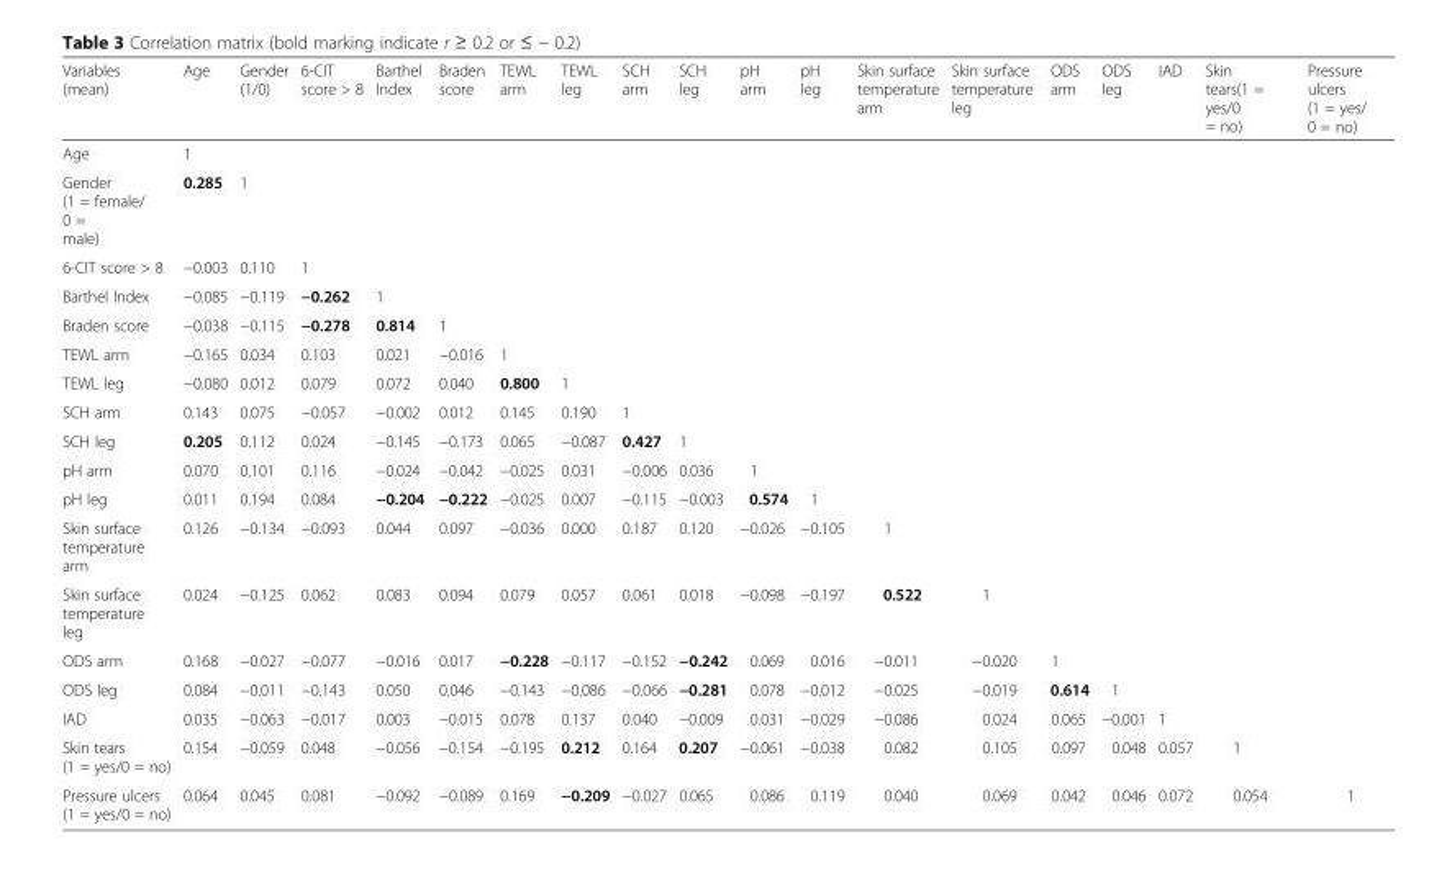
<table><thead><tr><td>Variables (mean)</td><td>Age</td><td>Gender (1/0)</td><td>6-CIT score &gt; 8</td><td>Barthel Index</td><td>Braden score</td><td>TEWL arm</td><td>TEWL leg</td><td>SCH arm</td><td>SCH leg</td><td>pH arm</td><td>pH leg</td><td>Skin surface temperature arm</td><td>Skin surface temperature leg</td><td>ODS arm</td><td>ODS leg</td><td>IAD</td><td>Skin tears(1 = yes/0 = no)</td><td>Pressure ulcers (1 = yes/ 0 = no)</td></tr></thead><tbody><tr><td>Age</td><td>1</td><td></td><td></td><td></td><td></td><td></td><td></td><td></td><td></td><td></td><td></td><td></td><td></td><td></td><td></td><td></td><td></td><td></td></tr><tr><td>Gender (1 = female/ 0 = male)</td><td>0.285</td><td>1</td><td></td><td></td><td></td><td></td><td></td><td></td><td></td><td></td><td></td><td></td><td></td><td></td><td></td><td></td><td></td><td></td></tr><tr><td>6-CIT score &gt; 8</td><td>−0.003</td><td>0.110</td><td>1</td><td></td><td></td><td></td><td></td><td></td><td></td><td></td><td></td><td></td><td></td><td></td><td></td><td></td><td></td><td></td></tr><tr><td>Barthel Index</td><td>−0.085</td><td>−0.119</td><td>−0.262</td><td>1</td><td></td><td></td><td></td><td></td><td></td><td></td><td></td><td></td><td></td><td></td><td></td><td></td><td></td><td></td></tr><tr><td>Braden score</td><td>−0.038</td><td>−0.115</td><td>−0.278</td><td>0.814</td><td>1</td><td></td><td></td><td></td><td></td><td></td><td></td><td></td><td></td><td></td><td></td><td></td><td></td><td></td></tr><tr><td>TEWL arm</td><td>−0.165</td><td>0.034</td><td>0.103</td><td>0.021</td><td>−0.016</td><td>1</td><td></td><td></td><td></td><td></td><td></td><td></td><td></td><td></td><td></td><td></td><td></td><td></td></tr><tr><td>TEWL leg</td><td>−0.080</td><td>0.012</td><td>0.079</td><td>0.072</td><td>0.040</td><td>0.800</td><td>1</td><td></td><td></td><td></td><td></td><td></td><td></td><td></td><td></td><td></td><td></td><td></td></tr><tr><td>SCH arm</td><td>0.143</td><td>0.075</td><td>−0.057</td><td>−0.002</td><td>0.012</td><td>0.145</td><td>0.190</td><td>1</td><td></td><td></td><td></td><td></td><td></td><td></td><td></td><td></td><td></td><td></td></tr><tr><td>SCH leg</td><td>0.205</td><td>0.112</td><td>0.024</td><td>−0.145</td><td>−0.173</td><td>0.065</td><td>−0.087</td><td>0.427</td><td>1</td><td></td><td></td><td></td><td></td><td></td><td></td><td></td><td></td><td></td></tr><tr><td>pH arm</td><td>0.070</td><td>0.101</td><td>0.116</td><td>−0.024</td><td>−0.042</td><td>−0.025</td><td>0.031</td><td>−0.006</td><td>0.036</td><td>1</td><td></td><td></td><td></td><td></td><td></td><td></td><td></td><td></td></tr><tr><td>pH leg</td><td>0.011</td><td>0.194</td><td>0.084</td><td>−0.204</td><td>−0.222</td><td>−0.025</td><td>0.007</td><td>−0.115</td><td>−0.003</td><td>0.574</td><td>1</td><td></td><td></td><td></td><td></td><td></td><td></td><td></td></tr><tr><td>Skin surface temperature arm</td><td>0.126</td><td>−0.134</td><td>−0.093</td><td>0.044</td><td>0.097</td><td>−0.036</td><td>0.000</td><td>0.187</td><td>0.120</td><td>−0.026</td><td>−0.105</td><td>1</td><td></td><td></td><td></td><td></td><td></td><td></td></tr><tr><td>Skin surface temperature leg</td><td>0.024</td><td>−0.125</td><td>0.062</td><td>0.083</td><td>0.094</td><td>0.079</td><td>0.057</td><td>0.061</td><td>0.018</td><td>−0.098</td><td>−0.197</td><td>0.522</td><td>1</td><td></td><td></td><td></td><td></td><td></td></tr><tr><td>ODS arm</td><td>0.168</td><td>−0.027</td><td>−0.077</td><td>−0.016</td><td>0.017</td><td>−0.228</td><td>−0.117</td><td>−0.152</td><td>−0.242</td><td>0.069</td><td>0.016</td><td>−0.011</td><td>−0.020</td><td>1</td><td></td><td></td><td></td><td></td></tr><tr><td>ODS leg</td><td>0.084</td><td>−0.011</td><td>−0.143</td><td>0.050</td><td>0.046</td><td>−0.143</td><td>−0.086</td><td>−0.066</td><td>−0.281</td><td>0.078</td><td>−0.012</td><td>−0.025</td><td>−0.019</td><td>0.614</td><td>1</td><td></td><td></td><td></td></tr><tr><td>IAD</td><td>0.035</td><td>−0.063</td><td>−0.017</td><td>0.003</td><td>−0.015</td><td>0.078</td><td>0.137</td><td>0.040</td><td>−0.009</td><td>0.031</td><td>−0.029</td><td>−0.086</td><td>0.024</td><td>0.065</td><td>−0.001</td><td>1</td><td></td><td></td></tr><tr><td>Skin tears (1 = yes/0 = no)</td><td>0.154</td><td>−0.059</td><td>0.048</td><td>−0.056</td><td>−0.154</td><td>−0.195</td><td>0.212</td><td>0.164</td><td>0.207</td><td>−0.061</td><td>−0.038</td><td>0.082</td><td>0.105</td><td>0.097</td><td>0.048</td><td>0.057</td><td>1</td><td></td></tr><tr><td>Pressure ulcers (1 = yes/0 = no)</td><td>0.064</td><td>0.045</td><td>0.081</td><td>−0.092</td><td>−0.089</td><td>0.169</td><td>−0.209</td><td>−0.027</td><td>0.065</td><td>0.086</td><td>0.119</td><td>0.040</td><td>0.069</td><td>0.042</td><td>0.046</td><td>0.072</td><td>0.054</td><td>1</td></tr></tbody></table>